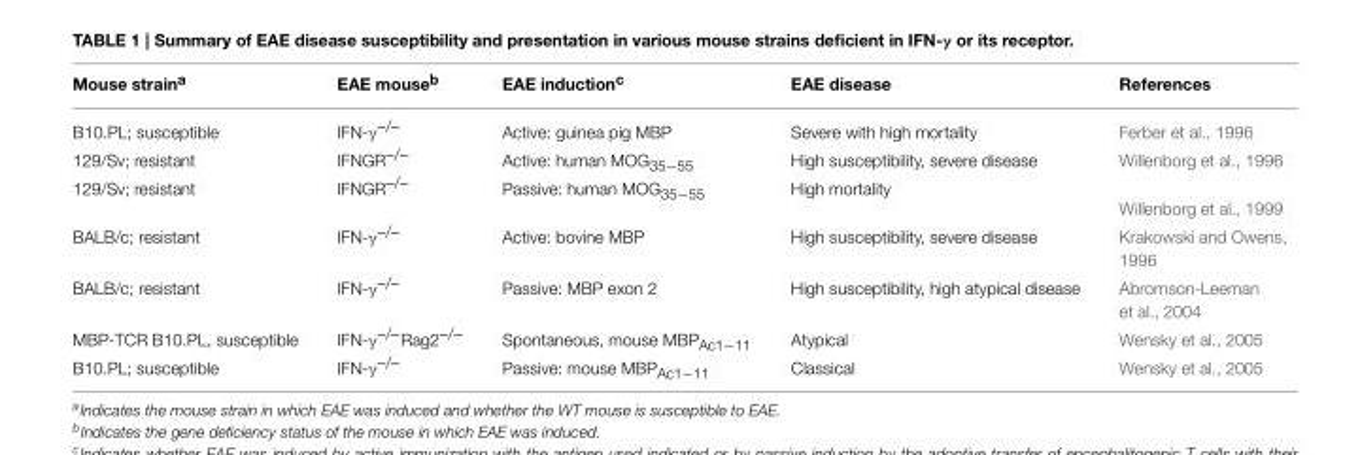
<table><thead><tr><td>Mouse strain<sup>a</sup></td><td>EAE mouse<sup>b</sup></td><td>EAE induction<sup>c</sup></td><td>EAE disease</td><td>References</td></tr></thead><tbody><tr><td>B10.PL; susceptible</td><td>IFN-γ<sup>–/–</sup></td><td>Active: guinea pig MBP</td><td>Severe with high mortality</td><td>Ferber et al., 1996</td></tr><tr><td>129/Sv; resistant</td><td>IFNGR<sup>–/–</sup></td><td>Active: human MOG<sub>35−55</sub></td><td>High susceptibility, severe disease</td><td>Willenborg et al., 1996</td></tr><tr><td>129/Sv; resistant</td><td>IFNGR<sup>–/–</sup></td><td>Passive: human MOG<sub>35−55</sub></td><td>High mortality</td><td>Willenborg et al., 1999</td></tr><tr><td>BALB/c; resistant</td><td>IFN-γ<sup>–/–</sup></td><td>Active: bovine MBP</td><td>High susceptibility, severe disease</td><td>Krakowski and Owens, 1996</td></tr><tr><td>BALB/c; resistant</td><td>IFN-γ<sup>–/–</sup></td><td>Passive: MBP exon 2</td><td>High susceptibility, high atypical disease</td><td>Abromson-Leeman et al., 2004</td></tr><tr><td>MBP-TCR B10.PL, susceptible</td><td>IFN-γ<sup>–/–</sup>Rag2<sup>–/–</sup></td><td>Spontaneous, mouse MBP<sub>Ac1−11</sub></td><td>Atypical</td><td>Wensky et al., 2005</td></tr><tr><td>B10.PL; susceptible</td><td>IFN-γ<sup>–/–</sup></td><td>Passive: mouse MBP<sub>Ac1−11</sub></td><td>Classical</td><td>Wensky et al., 2005</td></tr></tbody></table>